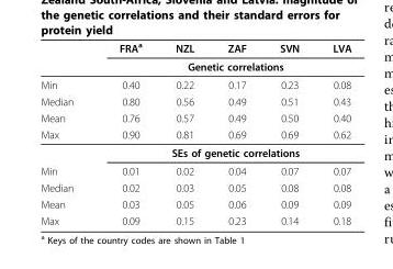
<table><thead><tr><td rowspan="2"></td><td>FRA<sup>a</sup></td><td>NZL</td><td>ZAF</td><td>SVN</td><td>LVA</td></tr><tr><td colspan="5">Genetic correlations</td></tr></thead><tbody><tr><td>Min</td><td>0.40</td><td>0.22</td><td>0.17</td><td>0.23</td><td>0.08</td></tr><tr><td>Median</td><td>0.80</td><td>0.56</td><td>0.49</td><td>0.51</td><td>0.43</td></tr><tr><td>Mean</td><td>0.76</td><td>0.57</td><td>0.49</td><td>0.50</td><td>0.40</td></tr><tr><td rowspan="2">Max</td><td>0.90</td><td>0.81</td><td>0.69</td><td>0.69</td><td>0.62</td></tr><tr><td colspan="5">SEs of genetic correlations</td></tr><tr><td>Min</td><td>0.01</td><td>0.02</td><td>0.04</td><td>0.07</td><td>0.07</td></tr><tr><td>Median</td><td>0.02</td><td>0.03</td><td>0.05</td><td>0.08</td><td>0.08</td></tr><tr><td>Mean</td><td>0.03</td><td>0.05</td><td>0.06</td><td>0.09</td><td>0.09</td></tr><tr><td>Max</td><td>0.09</td><td>0.15</td><td>0.23</td><td>0.14</td><td>0.18</td></tr></tbody></table>